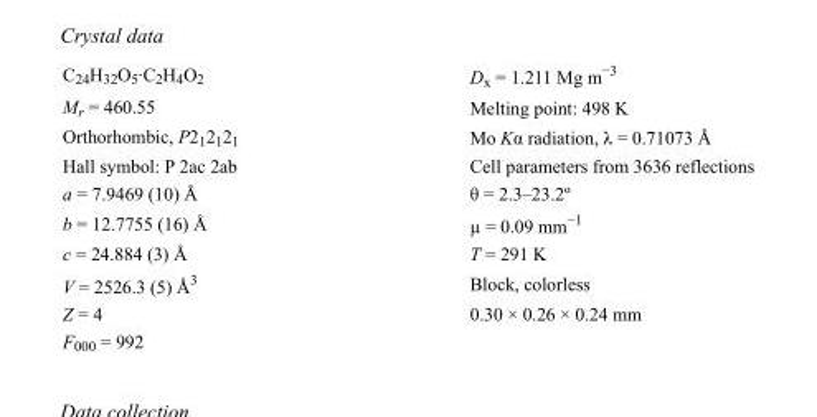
<table><tbody><tr><td>C<sub>24</sub>H<sub>32</sub>O<sub>5</sub>·C<sub>2</sub>H<sub>4</sub>O<sub>2</sub></td><td>D<sub>x</sub> = 1.211 Mg m<sup>−3</sup></td></tr><tr><td>M<sub>r</sub> = 460.55</td><td>Melting point: 498 K</td></tr><tr><td>Orthorhombic, P2<sub>1</sub>2<sub>1</sub>2<sub>1</sub></td><td>Mo Kα radiation, λ = 0.71073 Å</td></tr><tr><td>Hall symbol: P 2ac 2ab</td><td>Cell parameters from 3636 reflections</td></tr><tr><td>a = 7.9469 (10) Å</td><td>θ = 2.3–23.2º</td></tr><tr><td>b = 12.7755 (16) Å</td><td>µ = 0.09 mm<sup>−1</sup></td></tr><tr><td>c = 24.884 (3) Å</td><td>T = 291 K</td></tr><tr><td>V = 2526.3 (5) Å<sup>3</sup></td><td>Block, colorless</td></tr><tr><td>Z = 4</td><td>0.30 × 0.26 × 0.24 mm</td></tr><tr><td>F000 = 992</td><td></td></tr></tbody></table>